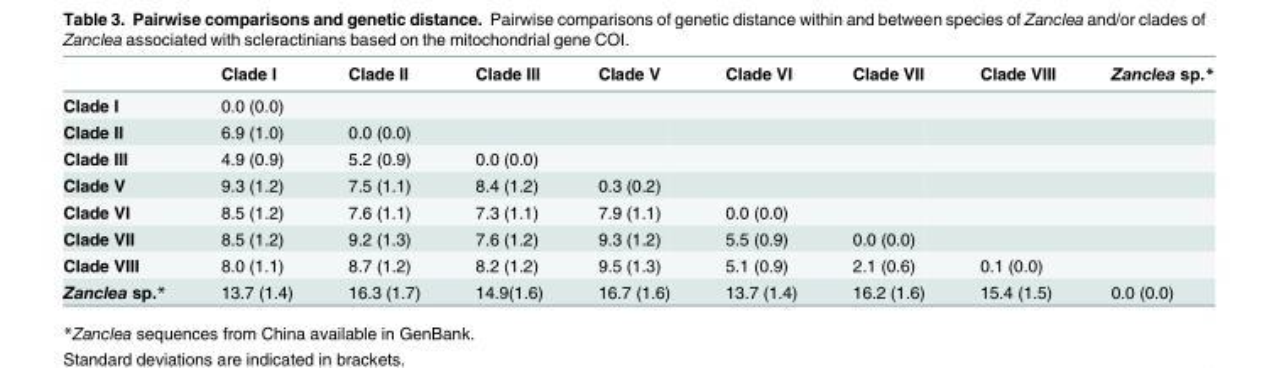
<table><thead><tr><td></td><td>Clade I</td><td>Clade II</td><td>Clade III</td><td>Clade V</td><td>Clade VI</td><td>Clade VII</td><td>Clade VIII</td><td>Zanclea sp.*</td></tr></thead><tbody><tr><td>Clade I</td><td>0.0 (0.0)</td><td></td><td></td><td></td><td></td><td></td><td></td><td></td></tr><tr><td>Clade II</td><td>6.9 (1.0)</td><td>0.0 (0.0)</td><td></td><td></td><td></td><td></td><td></td><td></td></tr><tr><td>Clade III</td><td>4.9 (0.9)</td><td>5.2 (0.9)</td><td>0.0 (0.0)</td><td></td><td></td><td></td><td></td><td></td></tr><tr><td>Clade V</td><td>9.3 (1.2)</td><td>7.5 (1.1)</td><td>8.4 (1.2)</td><td>0.3 (0.2)</td><td></td><td></td><td></td><td></td></tr><tr><td>Clade VI</td><td>8.5 (1.2)</td><td>7.6 (1.1)</td><td>7.3 (1.1)</td><td>7.9 (1.1)</td><td>0.0 (0.0)</td><td></td><td></td><td></td></tr><tr><td>Clade VII</td><td>8.5 (1.2)</td><td>9.2 (1.3)</td><td>7.6 (1.2)</td><td>9.3 (1.2)</td><td>5.5 (0.9)</td><td>0.0 (0.0)</td><td></td><td></td></tr><tr><td>Clade VIII</td><td>8.0 (1.1)</td><td>8.7 (1.2)</td><td>8.2 (1.2)</td><td>9.5 (1.3)</td><td>5.1 (0.9)</td><td>2.1 (0.6)</td><td>0.1 (0.0)</td><td></td></tr><tr><td>Zanclea sp.*</td><td>13.7 (1.4)</td><td>16.3 (1.7)</td><td>14.9(1.6)</td><td>16.7 (1.6)</td><td>13.7 (1.4)</td><td>16.2 (1.6)</td><td>15.4 (1.5)</td><td>0.0 (0.0)</td></tr></tbody></table>